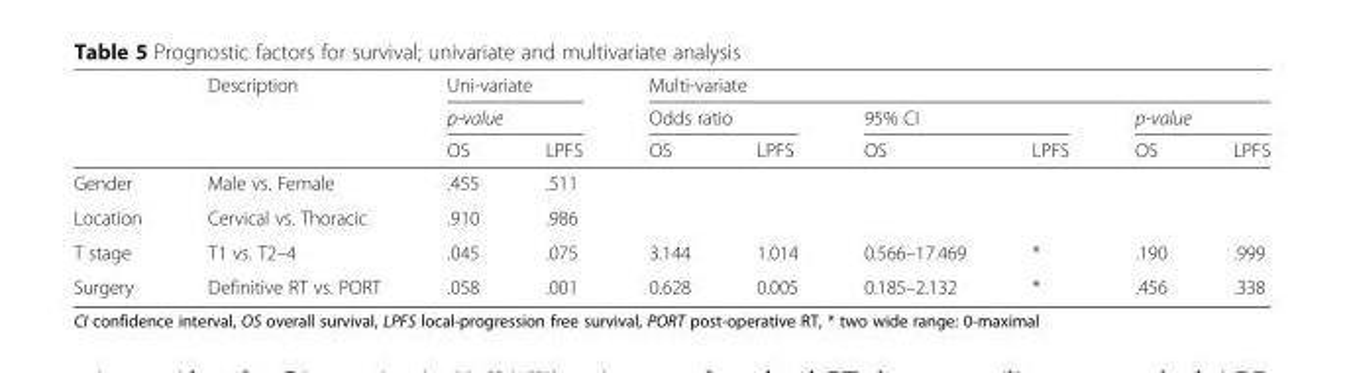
<table><thead><tr><td rowspan="3"></td><td rowspan="3">Description</td><td rowspan="2" colspan="2">Uni-variate p-value</td><td colspan="6">Multi-variate</td></tr><tr><td colspan="2">Odds ratio</td><td colspan="2">95% CI</td><td colspan="2">p-value</td></tr><tr><td>OS</td><td>LPFS</td><td>OS</td><td>LPFS</td><td>OS</td><td>LPFS</td><td>OS</td><td>LPFS</td></tr></thead><tbody><tr><td>Gender</td><td>Male vs. Female</td><td>.455</td><td>.511</td><td></td><td></td><td></td><td></td><td></td><td></td></tr><tr><td>Location</td><td>Cervical vs. Thoracic</td><td>.910</td><td>.986</td><td></td><td></td><td></td><td></td><td></td><td></td></tr><tr><td>T stage</td><td>T1 vs. T2–4</td><td>.045</td><td>.075</td><td>3.144</td><td>1.014</td><td>0.566–17.469</td><td>*</td><td>.190</td><td>.999</td></tr><tr><td>Surgery</td><td>Definitive RT vs. PORT</td><td>.058</td><td>.001</td><td>0.628</td><td>0.005</td><td>0.185–2.132</td><td>*</td><td>.456</td><td>.338</td></tr></tbody></table>